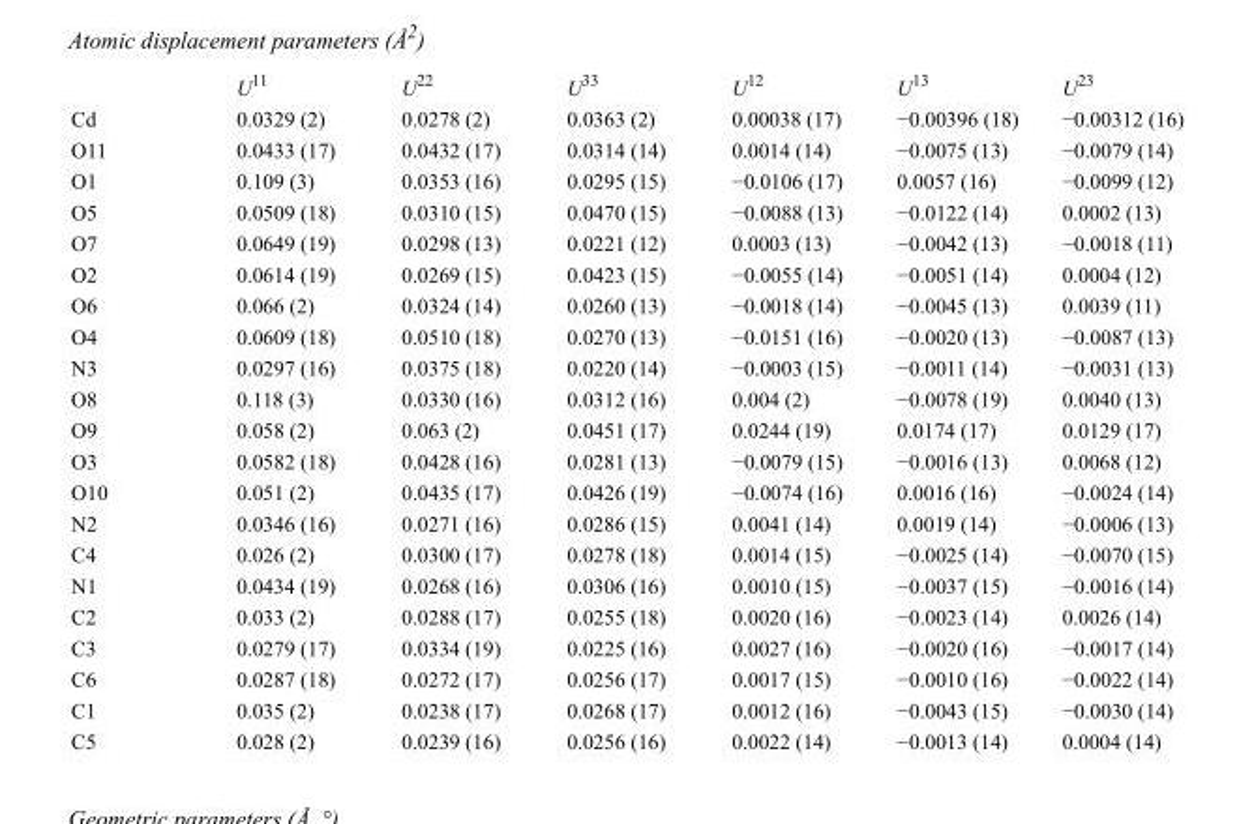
<table><thead><tr><td></td><td>U<sup>11</sup></td><td>U<sup>22</sup></td><td>U<sup>33</sup></td><td>U<sup>12</sup></td><td>U<sup>13</sup></td><td>U<sup>23</sup></td></tr></thead><tbody><tr><td>Cd</td><td>0.0329 (2)</td><td>0.0278 (2)</td><td>0.0363 (2)</td><td>0.00038 (17)</td><td>−0.00396 (18)</td><td>−0.00312 (16)</td></tr><tr><td>O11</td><td>0.0433 (17)</td><td>0.0432 (17)</td><td>0.0314 (14)</td><td>0.0014 (14)</td><td>−0.0075 (13)</td><td>−0.0079 (14)</td></tr><tr><td>O1</td><td>0.109 (3)</td><td>0.0353 (16)</td><td>0.0295 (15)</td><td>−0.0106 (17)</td><td>0.0057 (16)</td><td>−0.0099 (12)</td></tr><tr><td>O5</td><td>0.0509 (18)</td><td>0.0310 (15)</td><td>0.0470 (15)</td><td>−0.0088 (13)</td><td>−0.0122 (14)</td><td>0.0002 (13)</td></tr><tr><td>O7</td><td>0.0649 (19)</td><td>0.0298 (13)</td><td>0.0221 (12)</td><td>0.0003 (13)</td><td>−0.0042 (13)</td><td>−0.0018 (11)</td></tr><tr><td>O2</td><td>0.0614 (19)</td><td>0.0269 (15)</td><td>0.0423 (15)</td><td>−0.0055 (14)</td><td>−0.0051 (14)</td><td>0.0004 (12)</td></tr><tr><td>O6</td><td>0.066 (2)</td><td>0.0324 (14)</td><td>0.0260 (13)</td><td>−0.0018 (14)</td><td>−0.0045 (13)</td><td>0.0039 (11)</td></tr><tr><td>O4</td><td>0.0609 (18)</td><td>0.0510 (18)</td><td>0.0270 (13)</td><td>−0.0151 (16)</td><td>−0.0020 (13)</td><td>−0.0087 (13)</td></tr><tr><td>N3</td><td>0.0297 (16)</td><td>0.0375 (18)</td><td>0.0220 (14)</td><td>−0.0003 (15)</td><td>−0.0011 (14)</td><td>−0.0031 (13)</td></tr><tr><td>O8</td><td>0.118 (3)</td><td>0.0330 (16)</td><td>0.0312 (16)</td><td>0.004 (2)</td><td>−0.0078 (19)</td><td>0.0040 (13)</td></tr><tr><td>O9</td><td>0.058 (2)</td><td>0.063 (2)</td><td>0.0451 (17)</td><td>0.0244 (19)</td><td>0.0174 (17)</td><td>0.0129 (17)</td></tr><tr><td>O3</td><td>0.0582 (18)</td><td>0.0428 (16)</td><td>0.0281 (13)</td><td>−0.0079 (15)</td><td>−0.0016 (13)</td><td>0.0068 (12)</td></tr><tr><td>O10</td><td>0.051 (2)</td><td>0.0435 (17)</td><td>0.0426 (19)</td><td>−0.0074 (16)</td><td>0.0016 (16)</td><td>−0.0024 (14)</td></tr><tr><td>N2</td><td>0.0346 (16)</td><td>0.0271 (16)</td><td>0.0286 (15)</td><td>0.0041 (14)</td><td>0.0019 (14)</td><td>−0.0006 (13)</td></tr><tr><td>C4</td><td>0.026 (2)</td><td>0.0300 (17)</td><td>0.0278 (18)</td><td>0.0014 (15)</td><td>−0.0025 (14)</td><td>−0.0070 (15)</td></tr><tr><td>N1</td><td>0.0434 (19)</td><td>0.0268 (16)</td><td>0.0306 (16)</td><td>0.0010 (15)</td><td>−0.0037 (15)</td><td>−0.0016 (14)</td></tr><tr><td>C2</td><td>0.033 (2)</td><td>0.0288 (17)</td><td>0.0255 (18)</td><td>0.0020 (16)</td><td>−0.0023 (14)</td><td>0.0026 (14)</td></tr><tr><td>C3</td><td>0.0279 (17)</td><td>0.0334 (19)</td><td>0.0225 (16)</td><td>0.0027 (16)</td><td>−0.0020 (16)</td><td>−0.0017 (14)</td></tr><tr><td>C6</td><td>0.0287 (18)</td><td>0.0272 (17)</td><td>0.0256 (17)</td><td>0.0017 (15)</td><td>−0.0010 (16)</td><td>−0.0022 (14)</td></tr><tr><td>C1</td><td>0.035 (2)</td><td>0.0238 (17)</td><td>0.0268 (17)</td><td>0.0012 (16)</td><td>−0.0043 (15)</td><td>−0.0030 (14)</td></tr><tr><td>C5</td><td>0.028 (2)</td><td>0.0239 (16)</td><td>0.0256 (16)</td><td>0.0022 (14)</td><td>−0.0013 (14)</td><td>0.0004 (14)</td></tr></tbody></table>